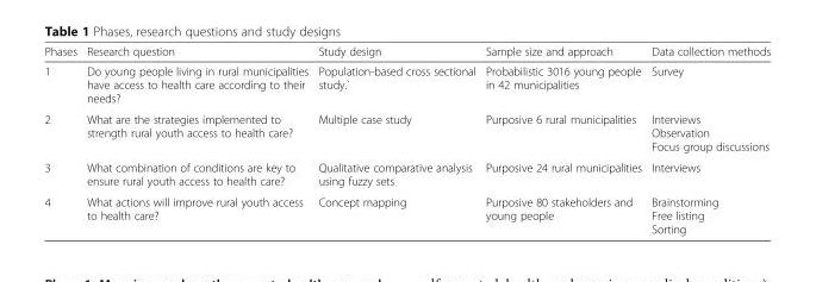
<table><thead><tr><td>Phases</td><td>Research question</td><td>Study design</td><td>Sample size and approach</td><td>Data collection methods</td></tr></thead><tbody><tr><td>1</td><td>Do young people living in rural municipalities have access to health care according to their needs?</td><td>Population-based cross sectional study.`</td><td>Probabilistic 3016 young people in 42 municipalities</td><td>Survey</td></tr><tr><td>2</td><td>What are the strategies implemented to strength rural youth access to health care?</td><td>Multiple case study</td><td>Purposive 6 rural municipalities</td><td>Interviews Observation Focus group discussions</td></tr><tr><td>3</td><td>What combination of conditions are key to ensure rural youth access to health care?</td><td>Qualitative comparative analysis using fuzzy sets</td><td>Purposive 24 rural municipalities</td><td>Interviews</td></tr><tr><td>4</td><td>What actions will improve rural youth access to health care?</td><td>Concept mapping</td><td>Purposive 80 stakeholders and young people</td><td>Brainstorming Free listing Sorting</td></tr></tbody></table>